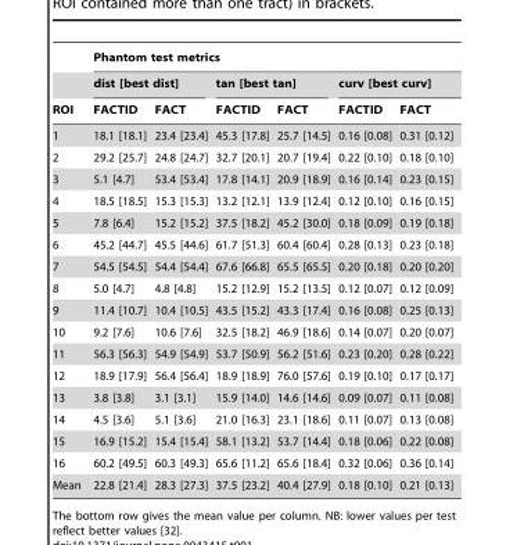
<table><thead><tr><td rowspan="3">ROI</td><td colspan="6">Phantom test metrics</td></tr><tr><td colspan="2">dist [best dist]</td><td colspan="2">tan [best tan]</td><td colspan="2">curv [best curv]</td></tr><tr><td>FACTID</td><td>FACT</td><td>FACTID</td><td>FACT</td><td>FACTID</td><td>FACT</td></tr></thead><tbody><tr><td>1</td><td>18.1 [18.1]</td><td>23.4 [23.4]</td><td>45.3 [17.8]</td><td>25.7 [14.5]</td><td>0.16 [0.08]</td><td>0.31 [0.12]</td></tr><tr><td>2</td><td>29.2 [25.7]</td><td>24.8 [24.7]</td><td>32.7 [20.1]</td><td>20.7 [19.4]</td><td>0.22 [0.10]</td><td>0.18 [0.10]</td></tr><tr><td>3</td><td>5.1 [4.7]</td><td>53.4 [53.4]</td><td>17.8 [14.1]</td><td>20.9 [18.9]</td><td>0.16 [0.14]</td><td>0.23 [0.15]</td></tr><tr><td>4</td><td>18.5 [18.5]</td><td>15.3 [15.3]</td><td>13.2 [12.1]</td><td>13.9 [12.4]</td><td>0.12 [0.10]</td><td>0.16 [0.15]</td></tr><tr><td>5</td><td>7.8 [6.4]</td><td>15.2 [15.2]</td><td>37.5 [18.2]</td><td>45.2 [30.0]</td><td>0.18 [0.09]</td><td>0.19 [0.18]</td></tr><tr><td>6</td><td>45.2 [44.7]</td><td>45.5 [44.6]</td><td>61.7 [51.3]</td><td>60.4 [60.4]</td><td>0.28 [0.13]</td><td>0.23 [0.18]</td></tr><tr><td>7</td><td>54.5 [54.5]</td><td>54.4 [54.4]</td><td>67.6 [66.8]</td><td>65.5 [65.5]</td><td>0.20 [0.18]</td><td>0.20 [0.20]</td></tr><tr><td>8</td><td>5.0 [4.7]</td><td>4.8 [4.8]</td><td>15.2 [12.9]</td><td>15.2 [13.5]</td><td>0.12 [0.07]</td><td>0.12 [0.09]</td></tr><tr><td>9</td><td>11.4 [10.7]</td><td>10.4 [10.5]</td><td>43.5 [15.2]</td><td>43.3 [17.4]</td><td>0.16 [0.08]</td><td>0.25 [0.13]</td></tr><tr><td>10</td><td>9.2 [7.6]</td><td>10.6 [7.6]</td><td>32.5 [18.2]</td><td>46.9 [18.6]</td><td>0.14 [0.07]</td><td>0.20 [0.07]</td></tr><tr><td>11</td><td>56.3 [56.3]</td><td>54.9 [54.9]</td><td>53.7 [50.9]</td><td>56.2 [51.6]</td><td>0.23 [0.20]</td><td>0.28 [0.22]</td></tr><tr><td>12</td><td>18.9 [17.9]</td><td>56.4 [56.4]</td><td>18.9 [18.9]</td><td>76.0 [57.6]</td><td>0.19 [0.10]</td><td>0.17 [0.17]</td></tr><tr><td>13</td><td>3.8 [3.8]</td><td>3.1 [3.1]</td><td>15.9 [14.0]</td><td>14.6 [14.6]</td><td>0.09 [0.07]</td><td>0.11 [0.08]</td></tr><tr><td>14</td><td>4.5 [3.6]</td><td>5.1 [3.6]</td><td>21.0 [16.3]</td><td>23.1 [18.6]</td><td>0.11 [0.07]</td><td>0.13 [0.08]</td></tr><tr><td>15</td><td>16.9 [15.2]</td><td>15.4 [15.4]</td><td>58.1 [13.2]</td><td>53.7 [14.4]</td><td>0.18 [0.06]</td><td>0.22 [0.08]</td></tr><tr><td>16</td><td>60.2 [49.5]</td><td>60.3 [49.3]</td><td>65.6 [11.2]</td><td>65.6 [18.4]</td><td>0.32 [0.06]</td><td>0.36 [0.14]</td></tr><tr><td>Mean</td><td>22.8 [21.4]</td><td>28.3 [27.3]</td><td>37.5 [23.2]</td><td>40.4 [27.9]</td><td>0.18 [0.10]</td><td>0.21 [0.13]</td></tr></tbody></table>